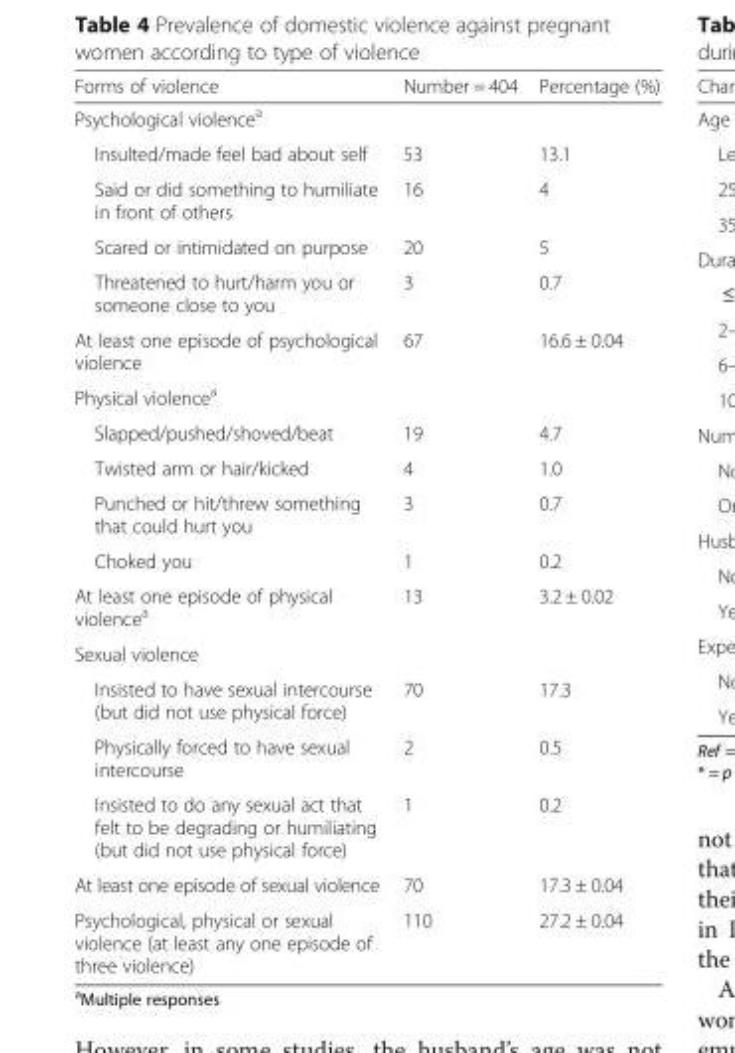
<table><thead><tr><td>Forms of violence</td><td>Number = 404</td><td>Percentage (%)</td></tr></thead><tbody><tr><td colspan="3">Psychological violence<sup>a</sup></td></tr><tr><td>Insulted/made feel bad about self</td><td>53</td><td>13.1</td></tr><tr><td>Said or did something to humiliate in front of others</td><td>16</td><td>4</td></tr><tr><td>Scared or intimidated on purpose</td><td>20</td><td>5</td></tr><tr><td>Threatened to hurt/harm you or someone close to you</td><td>3</td><td>0.7</td></tr><tr><td>At least one episode of psychological violence</td><td>67</td><td>16.6 ± 0.04</td></tr><tr><td colspan="3">Physical violence<sup>a</sup></td></tr><tr><td>Slapped/pushed/shoved/beat</td><td>19</td><td>4.7</td></tr><tr><td>Twisted arm or hair/kicked</td><td>4</td><td>1.0</td></tr><tr><td>Punched or hit/threw something that could hurt you</td><td>3</td><td>0.7</td></tr><tr><td>Choked you</td><td>1</td><td>0.2</td></tr><tr><td>At least one episode of physical violence<sup>a</sup></td><td>13</td><td>3.2 ± 0.02</td></tr><tr><td colspan="3">Sexual violence</td></tr><tr><td>Insisted to have sexual intercourse (but did not use physical force)</td><td>70</td><td>17.3</td></tr><tr><td>Physically forced to have sexual intercourse</td><td>2</td><td>0.5</td></tr><tr><td>Insisted to do any sexual act that felt to be degrading or humiliating (but did not use physical force)</td><td>1</td><td>0.2</td></tr><tr><td>At least one episode of sexual violence</td><td>70</td><td>17.3 ± 0.04</td></tr><tr><td>Psychological, physical or sexual violence (at least any one episode of three violence)</td><td>110</td><td>27.2 ± 0.04</td></tr></tbody></table>